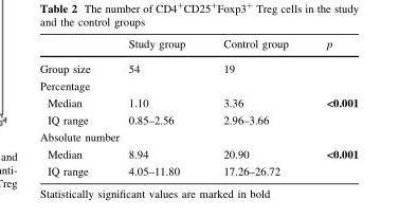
<table><thead><tr><td></td><td>Study group</td><td>Control group</td><td>p</td></tr></thead><tbody><tr><td>Group size</td><td>54</td><td>19</td><td></td></tr><tr><td colspan="4">Percentage</td></tr><tr><td>Median</td><td>1.10</td><td>3.36</td><td rowspan="2">&lt;0.001</td></tr><tr><td>IQ range</td><td>0.85–2.56</td><td>2.96–3.66</td></tr><tr><td colspan="4">Absolute number</td></tr><tr><td>Median</td><td>8.94</td><td>20.90</td><td rowspan="2">&lt;0.001</td></tr><tr><td>IQ range</td><td>4.05–11.80</td><td>17.26–26.72</td></tr></tbody></table>